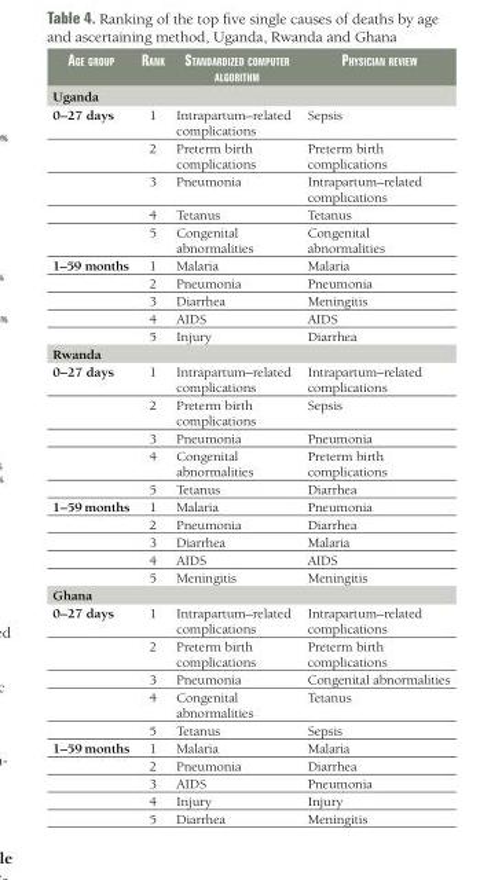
<table><thead><tr><td>age gRoUp</td><td>Rank</td><td>StandaRdized CompUteR algoRithm</td><td>phySiCian ReView</td></tr></thead><tbody><tr><td colspan="4">Uganda</td></tr><tr><td rowspan="5">0–27 days</td><td>1</td><td>Intrapartum–related complications</td><td>Sepsis</td></tr><tr><td>2</td><td>Preterm birth complications</td><td>Preterm birth complications</td></tr><tr><td>3</td><td>Pneumonia</td><td>Intrapartum–related complications</td></tr><tr><td>4</td><td>Tetanus</td><td>Tetanus</td></tr><tr><td>5</td><td>Congenital abnormalities</td><td>Congenital abnormalities</td></tr><tr><td rowspan="5">1–59 months</td><td>1</td><td>Malaria</td><td>Malaria</td></tr><tr><td>2</td><td>Pneumonia</td><td>Pneumonia</td></tr><tr><td>3</td><td>Diarrhea</td><td>Meningitis</td></tr><tr><td>4</td><td>AIDS</td><td>AIDS</td></tr><tr><td>5</td><td>Injury</td><td>Diarrhea</td></tr><tr><td colspan="4">Rwanda</td></tr><tr><td rowspan="5">0–27 days</td><td>1</td><td>Intrapartum–related complications</td><td>Intrapartum–related complications</td></tr><tr><td>2</td><td>Preterm birth complications</td><td>Sepsis</td></tr><tr><td>3</td><td>Pneumonia</td><td>Pneumonia</td></tr><tr><td>4</td><td>Congenital abnormalities</td><td>Preterm birth complications</td></tr><tr><td>5</td><td>Tetanus</td><td>Diarrhea</td></tr><tr><td rowspan="5">1–59 months</td><td>1</td><td>Malaria</td><td>Pneumonia</td></tr><tr><td>2</td><td>Pneumonia</td><td>Diarrhea</td></tr><tr><td>3</td><td>Diarrhea</td><td>Malaria</td></tr><tr><td>4</td><td>AIDS</td><td>AIDS</td></tr><tr><td>5</td><td>Meningitis</td><td>Meningitis</td></tr><tr><td colspan="4">Ghana</td></tr><tr><td rowspan="5">0–27 days</td><td>1</td><td>Intrapartum–related complications</td><td>Intrapartum–related complications</td></tr><tr><td>2</td><td>Preterm birth complications</td><td>Preterm birth complications</td></tr><tr><td>3</td><td>Pneumonia</td><td>Congenital abnormalities</td></tr><tr><td>4</td><td>Congenital abnormalities</td><td>Tetanus</td></tr><tr><td>5</td><td>Tetanus</td><td>Sepsis</td></tr><tr><td rowspan="5">1–59 months</td><td>1</td><td>Malaria</td><td>Malaria</td></tr><tr><td>2</td><td>Pneumonia</td><td>Diarrhea</td></tr><tr><td>3</td><td>AIDS</td><td>Pneumonia</td></tr><tr><td>4</td><td>Injury</td><td>Injury</td></tr><tr><td>5</td><td>Diarrhea</td><td>Meningitis</td></tr></tbody></table>